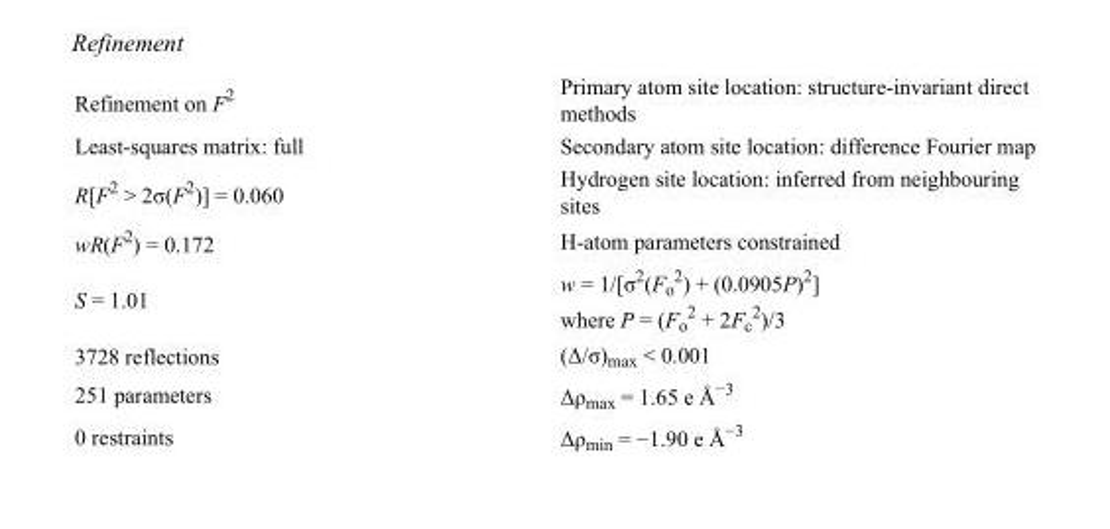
<table><tbody><tr><td>Refinement on F<sup>2</sup></td><td>Primary atom site location: structure-invariant direct methods</td></tr><tr><td>Least-squares matrix: full</td><td>Secondary atom site location: difference Fourier map</td></tr><tr><td>R[F<sup>2</sup> &gt; 2σ(F<sup>2</sup>)] = 0.060</td><td>Hydrogen site location: inferred from neighbouring sites</td></tr><tr><td>wR(F<sup>2</sup>) = 0.172</td><td>H-atom parameters constrained</td></tr><tr><td>S = 1.01</td><td>w = 1/[σ<sup>2</sup>(F<sub>o</sub> <sup>2</sup>) + (0.0905P)<sup>2</sup>] where P = (F<sub>o</sub> <sup>2</sup> + 2F<sub>c</sub> <sup>2</sup>)/3</td></tr><tr><td>3728 reflections</td><td>(Δ/σ)<sub>max</sub> &lt; 0.001</td></tr><tr><td>251 parameters</td><td>Δρ<sub>max</sub> = 1.65 e Å<sup>−3</sup></td></tr><tr><td>0 restraints</td><td>Δρ<sub>min</sub> = −1.90 e Å<sup>−3</sup></td></tr></tbody></table>